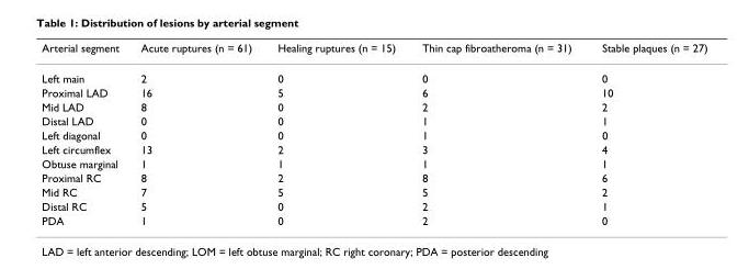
<table><thead><tr><td>Arterial segment</td><td>Acute ruptures (n = 61)</td><td>Healing ruptures (n = 15)</td><td>Thin cap fibroatheroma (n = 31)</td><td>Stable plaques (n = 27)</td></tr></thead><tbody><tr><td>Left main</td><td>2</td><td>0</td><td>0</td><td>0</td></tr><tr><td>Proximal LAD</td><td>16</td><td>5</td><td>6</td><td>10</td></tr><tr><td>Mid LAD</td><td>8</td><td>0</td><td>2</td><td>2</td></tr><tr><td>Distal LAD</td><td>0</td><td>0</td><td>1</td><td>1</td></tr><tr><td>Left diagonal</td><td>0</td><td>0</td><td>1</td><td>0</td></tr><tr><td>Left circumflex</td><td>13</td><td>2</td><td>3</td><td>4</td></tr><tr><td>Obtuse marginal</td><td>1</td><td>1</td><td>1</td><td>1</td></tr><tr><td>Proximal RC</td><td>8</td><td>2</td><td>8</td><td>6</td></tr><tr><td>Mid RC</td><td>7</td><td>5</td><td>5</td><td>2</td></tr><tr><td>Distal RC</td><td>5</td><td>0</td><td>2</td><td>1</td></tr><tr><td>PDA</td><td>1</td><td>0</td><td>2</td><td>0</td></tr></tbody></table>